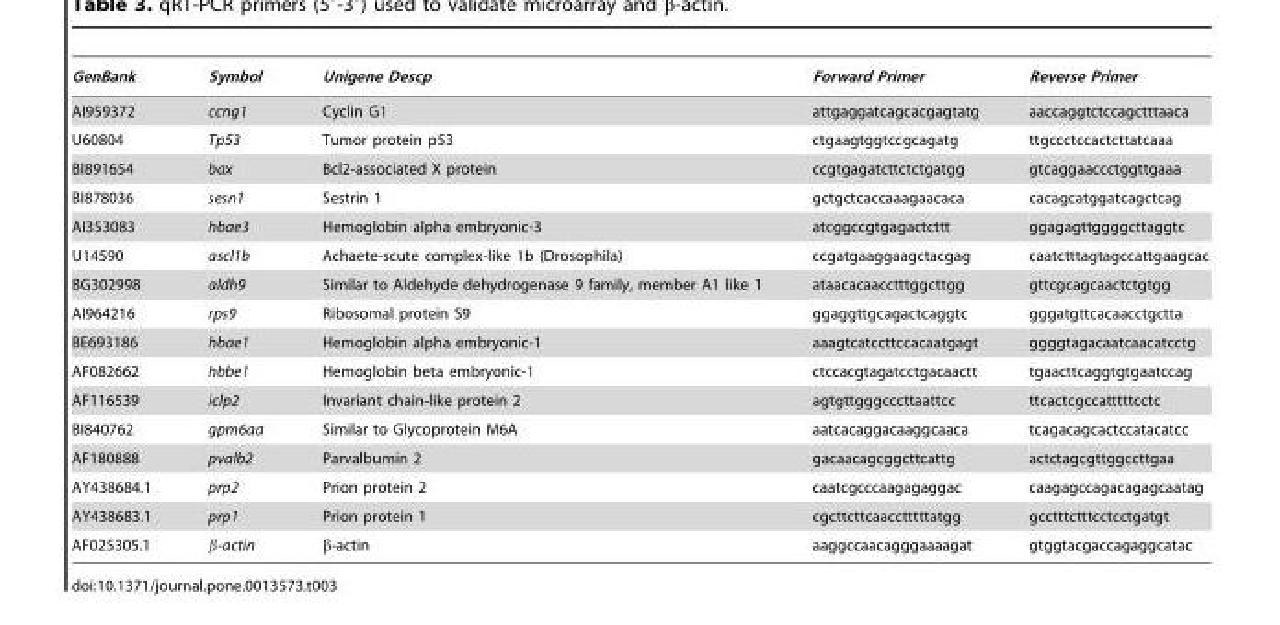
<table><thead><tr><td>GenBank</td><td>Symbol</td><td>Unigene Descp</td><td>Forward Primer</td><td>Reverse Primer</td></tr></thead><tbody><tr><td>AI959372</td><td>ccng1</td><td>Cyclin G1</td><td>attgaggatcagcacgagtatg</td><td>aaccaggtctccagctttaaca</td></tr><tr><td>U60804</td><td>Tp53</td><td>Tumor protein p53</td><td>ctgaagtggtccgcagatg</td><td>ttgccctccactcttatcaaa</td></tr><tr><td>BI891654</td><td>bax</td><td>Bcl2-associated X protein</td><td>ccgtgagatcttctctgatgg</td><td>gtcaggaaccctggttgaaa</td></tr><tr><td>BI878036</td><td>sesn1</td><td>Sestrin 1</td><td>gctgctcaccaaagaacaca</td><td>cacagcatggatcagctcag</td></tr><tr><td>AI353083</td><td>hbae3</td><td>Hemoglobin alpha embryonic-3</td><td>atcggccgtgagactcttt</td><td>ggagagttggggcttaggtc</td></tr><tr><td>U14590</td><td>ascl1b</td><td>Achaete-scute complex-like 1b (Drosophila)</td><td>ccgatgaaggaagctacgag</td><td>caatctttagtagccattgaagcac</td></tr><tr><td>BG302998</td><td>aldh9</td><td>Similar to Aldehyde dehydrogenase 9 family, member A1 like 1</td><td>ataacacaacctttggcttgg</td><td>gttcgcagcaactctgtgg</td></tr><tr><td>AI964216</td><td>rps9</td><td>Ribosomal protein S9</td><td>ggaggttgcagactcaggtc</td><td>gggatgttcacaacctgctta</td></tr><tr><td>BE693186</td><td>hbae1</td><td>Hemoglobin alpha embryonic-1</td><td>aaagtcatccttccacaatgagt</td><td>ggggtagacaatcaacatcctg</td></tr><tr><td>AF082662</td><td>hbbe1</td><td>Hemoglobin beta embryonic-1</td><td>ctccacgtagatcctgacaactt</td><td>tgaacttcaggtgtgaatccag</td></tr><tr><td>AF116539</td><td>iclp2</td><td>Invariant chain-like protein 2</td><td>agtgttgggcccttaattcc</td><td>ttcactcgccatttttcctc</td></tr><tr><td>BI840762</td><td>gpm6aa</td><td>Similar to Glycoprotein M6A</td><td>aatcacaggacaaggcaaca</td><td>tcagacagcactccatacatcc</td></tr><tr><td>AF180888</td><td>pvalb2</td><td>Parvalbumin 2</td><td>gacaacagcggcttcattg</td><td>actctagcgttggccttgaa</td></tr><tr><td>AY438684.1</td><td>prp2</td><td>Prion protein 2</td><td>caatcgcccaagagaggac</td><td>caagagccagacagagcaatag</td></tr><tr><td>AY438683.1</td><td>prp1</td><td>Prion protein 1</td><td>cgcttcttcaacctttttatgg</td><td>gcctttctttcctcctgatgt</td></tr><tr><td>AF025305.1</td><td>β-actin</td><td>β-actin</td><td>aaggccaacagggaaaagat</td><td>gtggtacgaccagaggcatac</td></tr></tbody></table>